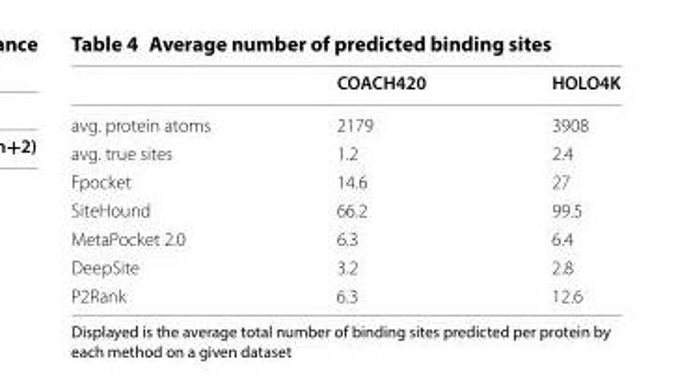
<table><thead><tr><td></td><td>COACH420</td><td>HOLO4K</td></tr></thead><tbody><tr><td>avg. protein atoms</td><td>2179</td><td>3908</td></tr><tr><td>avg. true sites</td><td>1.2</td><td>2.4</td></tr><tr><td>Fpocket</td><td>14.6</td><td>27</td></tr><tr><td>SiteHound</td><td>66.2</td><td>99.5</td></tr><tr><td>MetaPocket 2.0</td><td>6.3</td><td>6.4</td></tr><tr><td>DeepSite</td><td>3.2</td><td>2.8</td></tr><tr><td>P2Rank</td><td>6.3</td><td>12.6</td></tr></tbody></table>